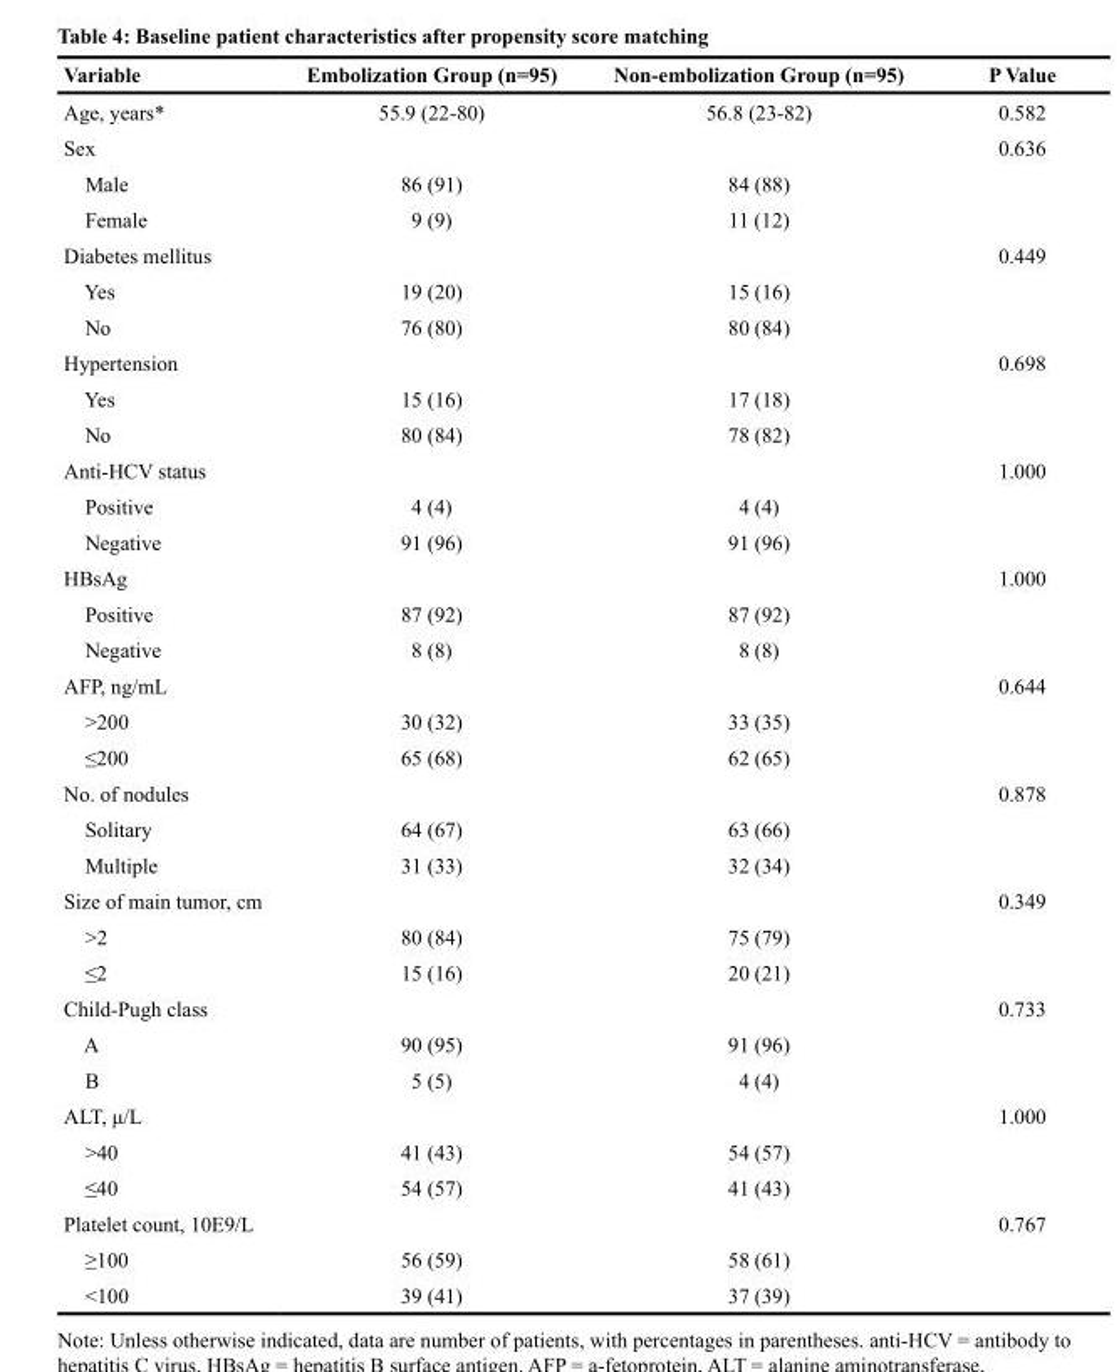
<table><thead><tr><td>Variable</td><td>Embolization Group (n=95)</td><td>Non-embolization Group (n=95)</td><td>P Value</td></tr></thead><tbody><tr><td>Age, years*</td><td>55.9 (22-80)</td><td>56.8 (23-82)</td><td>0.582</td></tr><tr><td>Sex</td><td></td><td></td><td>0.636</td></tr><tr><td>Male</td><td>86 (91)</td><td>84 (88)</td><td></td></tr><tr><td>Female</td><td>9 (9)</td><td>11 (12)</td><td></td></tr><tr><td>Diabetes mellitus</td><td></td><td></td><td>0.449</td></tr><tr><td>Yes</td><td>19 (20)</td><td>15 (16)</td><td></td></tr><tr><td>No</td><td>76 (80)</td><td>80 (84)</td><td></td></tr><tr><td>Hypertension</td><td></td><td></td><td>0.698</td></tr><tr><td>Yes</td><td>15 (16)</td><td>17 (18)</td><td></td></tr><tr><td>No</td><td>80 (84)</td><td>78 (82)</td><td></td></tr><tr><td>Anti-HCV status</td><td></td><td></td><td>1.000</td></tr><tr><td>Positive</td><td>4 (4)</td><td>4 (4)</td><td></td></tr><tr><td>Negative</td><td>91 (96)</td><td>91 (96)</td><td></td></tr><tr><td>HBsAg</td><td></td><td></td><td>1.000</td></tr><tr><td>Positive</td><td>87 (92)</td><td>87 (92)</td><td></td></tr><tr><td>Negative</td><td>8 (8)</td><td>8 (8)</td><td></td></tr><tr><td>AFP, ng/mL</td><td></td><td></td><td>0.644</td></tr><tr><td>&gt;200</td><td>30 (32)</td><td>33 (35)</td><td></td></tr><tr><td>≤200</td><td>65 (68)</td><td>62 (65)</td><td></td></tr><tr><td>No. of nodules</td><td></td><td></td><td>0.878</td></tr><tr><td>Solitary</td><td>64 (67)</td><td>63 (66)</td><td></td></tr><tr><td>Multiple</td><td>31 (33)</td><td>32 (34)</td><td></td></tr><tr><td>Size of main tumor, cm</td><td></td><td></td><td>0.349</td></tr><tr><td>&gt;2</td><td>80 (84)</td><td>75 (79)</td><td></td></tr><tr><td>≤2</td><td>15 (16)</td><td>20 (21)</td><td></td></tr><tr><td>Child-Pugh class</td><td></td><td></td><td>0.733</td></tr><tr><td>A</td><td>90 (95)</td><td>91 (96)</td><td></td></tr><tr><td>B</td><td>5 (5)</td><td>4 (4)</td><td></td></tr><tr><td>ALT, μ/L</td><td></td><td></td><td>1.000</td></tr><tr><td>&gt;40</td><td>41 (43)</td><td>54 (57)</td><td></td></tr><tr><td>≤40</td><td>54 (57)</td><td>41 (43)</td><td></td></tr><tr><td>Platelet count, 10E9/L</td><td></td><td></td><td>0.767</td></tr><tr><td>≥100</td><td>56 (59)</td><td>58 (61)</td><td></td></tr><tr><td>&lt;100</td><td>39 (41)</td><td>37 (39)</td><td></td></tr></tbody></table>